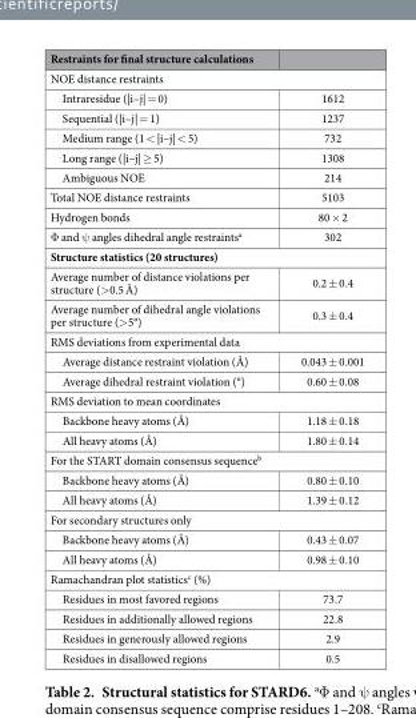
<table><thead><tr><td>Restraints for final structure calculations</td><td></td></tr></thead><tbody><tr><td colspan="2">NOE distance restraints</td></tr><tr><td>Intraresidue (|i–j| = 0)</td><td>1612</td></tr><tr><td>Sequential (|i–j| = 1)</td><td>1237</td></tr><tr><td>Medium range (1 &lt; |i–j| &lt; 5)</td><td>732</td></tr><tr><td>Long range (|i–j| ≥ 5)</td><td>1308</td></tr><tr><td>Ambiguous NOE</td><td>214</td></tr><tr><td>Total NOE distance restraints</td><td>5103</td></tr><tr><td>Hydrogen bonds</td><td>80 × 2</td></tr><tr><td>Φ and ψ angles dihedral angle restraints<sup>a</sup></td><td>302</td></tr><tr><td colspan="2">Structure statistics (20 structures)</td></tr><tr><td>Average number of distance violations per structure (&gt; 0.5 Å)</td><td>0.2 ± 0.4</td></tr><tr><td>Average number of dihedral angle violations per structure (&gt; 5°)</td><td>0.3 ± 0.4</td></tr><tr><td colspan="2">RMS deviations from experimental data</td></tr><tr><td>Average distance restraint violation (Å)</td><td>0.043 ± 0.001</td></tr><tr><td>Average dihedral restraint violation (°)</td><td>0.60 ± 0.08</td></tr><tr><td colspan="2">RMS deviation to mean coordinates</td></tr><tr><td>Backbone heavy atoms (Å)</td><td>1.18 ± 0.18</td></tr><tr><td>All heavy atoms (Å)</td><td>1.80 ± 0.14</td></tr><tr><td colspan="2">For the START domain consensus sequence<sup>b</sup></td></tr><tr><td>Backbone heavy atoms (Å)</td><td>0.80 ± 0.10</td></tr><tr><td>All heavy atoms (Å)</td><td>1.39 ± 0.12</td></tr><tr><td colspan="2">For secondary structures only</td></tr><tr><td>Backbone heavy atoms (Å)</td><td>0.43 ± 0.07</td></tr><tr><td>All heavy atoms (Å)</td><td>0.98 ± 0.10</td></tr><tr><td colspan="2">Ramachandran plot statistics<sup>c</sup> (%)</td></tr><tr><td>Residues in most favored regions</td><td>73.7</td></tr><tr><td>Residues in additionally allowed regions</td><td>22.8</td></tr><tr><td>Residues in generously allowed regions</td><td>2.9</td></tr><tr><td>Residues in disallowed regions</td><td>0.5</td></tr></tbody></table>